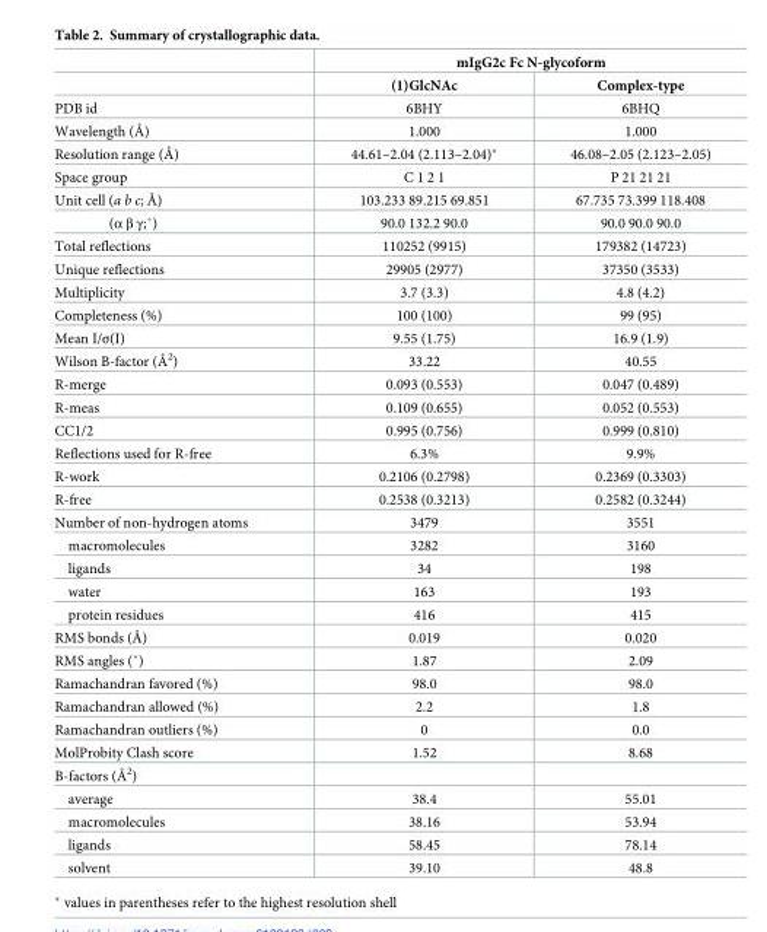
<table><thead><tr><td rowspan="2"></td><td colspan="2">mIgG2c Fc N-glycoform</td></tr><tr><td>(1)GlcNAc</td><td>Complex-type</td></tr></thead><tbody><tr><td>PDB id</td><td>6BHY</td><td>6BHQ</td></tr><tr><td>Wavelength (Å)</td><td>1.000</td><td>1.000</td></tr><tr><td>Resolution range (Å)</td><td>44.61–2.04 (2.113–2.04)*</td><td>46.08–2.05 (2.123–2.05)</td></tr><tr><td>Space group</td><td>C 1 2 1</td><td>P 21 21 21</td></tr><tr><td>Unit cell (a b c; Å)</td><td>103.233 89.215 69.851</td><td>67.735 73.399 118.408</td></tr><tr><td>(α β γ;˚)</td><td>90.0 132.2 90.0</td><td>90.0 90.0 90.0</td></tr><tr><td>Total reflections</td><td>110252 (9915)</td><td>179382 (14723)</td></tr><tr><td>Unique reflections</td><td>29905 (2977)</td><td>37350 (3533)</td></tr><tr><td>Multiplicity</td><td>3.7 (3.3)</td><td>4.8 (4.2)</td></tr><tr><td>Completeness (%)</td><td>100 (100)</td><td>99 (95)</td></tr><tr><td>Mean I/σ(I)</td><td>9.55 (1.75)</td><td>16.9 (1.9)</td></tr><tr><td>Wilson B-factor (Å<sup>2</sup>)</td><td>33.22</td><td>40.55</td></tr><tr><td>R-merge</td><td>0.093 (0.553)</td><td>0.047 (0.489)</td></tr><tr><td>R-meas</td><td>0.109 (0.655)</td><td>0.052 (0.553)</td></tr><tr><td>CC1/2</td><td>0.995 (0.756)</td><td>0.999 (0.810)</td></tr><tr><td>Reflections used for R-free</td><td>6.3%</td><td>9.9%</td></tr><tr><td>R-work</td><td>0.2106 (0.2798)</td><td>0.2369 (0.3303)</td></tr><tr><td>R-free</td><td>0.2538 (0.3213)</td><td>0.2582 (0.3244)</td></tr><tr><td>Number of non-hydrogen atoms</td><td>3479</td><td>3551</td></tr><tr><td>macromolecules</td><td>3282</td><td>3160</td></tr><tr><td>ligands</td><td>34</td><td>198</td></tr><tr><td>water</td><td>163</td><td>193</td></tr><tr><td>protein residues</td><td>416</td><td>415</td></tr><tr><td>RMS bonds (Å)</td><td>0.019</td><td>0.020</td></tr><tr><td>RMS angles (˚)</td><td>1.87</td><td>2.09</td></tr><tr><td>Ramachandran favored (%)</td><td>98.0</td><td>98.0</td></tr><tr><td>Ramachandran allowed (%)</td><td>2.2</td><td>1.8</td></tr><tr><td>Ramachandran outliers (%)</td><td>0</td><td>0.0</td></tr><tr><td>MolProbity Clash score</td><td>1.52</td><td>8.68</td></tr><tr><td colspan="3">B-factors (Å<sup>2</sup>)</td></tr><tr><td>average</td><td>38.4</td><td>55.01</td></tr><tr><td>macromolecules</td><td>38.16</td><td>53.94</td></tr><tr><td>ligands</td><td>58.45</td><td>78.14</td></tr><tr><td>solvent</td><td>39.10</td><td>48.8</td></tr></tbody></table>